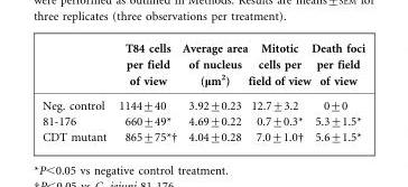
<table><thead><tr><td></td><td>T84 cells per field of view</td><td>Average area of nucleus (μm<sup>2</sup>)</td><td>Mitotic cells per field of view</td><td>Death foci per field of view</td></tr></thead><tbody><tr><td>Neg. control</td><td>1144±40</td><td>3.92±0.23</td><td>12.7±3.2</td><td>0±0</td></tr><tr><td>81-176</td><td>660±49*</td><td>4.69±0.22</td><td>0.7±0.3*</td><td>5.3±1.5*</td></tr><tr><td>CDT mutant</td><td>865±75*†</td><td>4.04±0.28</td><td>7.0±1.0†</td><td>5.6±1.5*</td></tr></tbody></table>